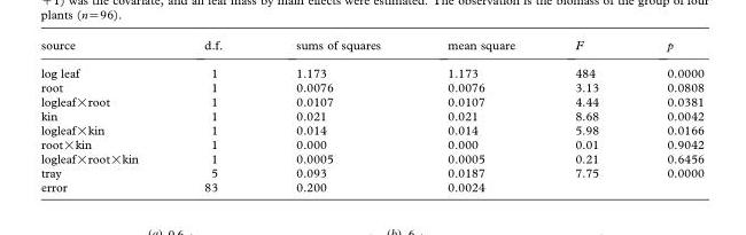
<table><thead><tr><td>source</td><td>d.f.</td><td>sums of squares</td><td>mean square</td><td>F</td><td>p</td></tr></thead><tbody><tr><td>log leaf</td><td>1</td><td>1.173</td><td>1.173</td><td>484</td><td>0.0000</td></tr><tr><td>root</td><td>1</td><td>0.0076</td><td>0.0076</td><td>3.13</td><td>0.0808</td></tr><tr><td>logleaf×root</td><td>1</td><td>0.0107</td><td>0.0107</td><td>4.44</td><td>0.0381</td></tr><tr><td>kin</td><td>1</td><td>0.021</td><td>0.021</td><td>8.68</td><td>0.0042</td></tr><tr><td>logleaf×kin</td><td>1</td><td>0.014</td><td>0.014</td><td>5.98</td><td>0.0166</td></tr><tr><td>root×kin</td><td>1</td><td>0.000</td><td>0.000</td><td>0.01</td><td>0.9042</td></tr><tr><td>logleaf×root×kin</td><td>1</td><td>0.0005</td><td>0.0005</td><td>0.21</td><td>0.6456</td></tr><tr><td>tray</td><td>5</td><td>0.093</td><td>0.0187</td><td>7.75</td><td>0.0000</td></tr><tr><td>error</td><td>83</td><td>0.200</td><td>0.0024</td><td></td><td></td></tr></tbody></table>